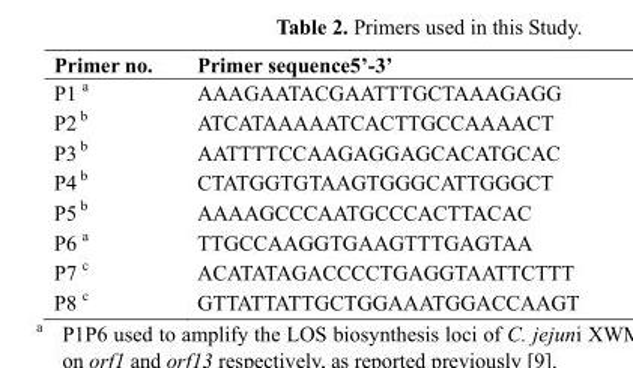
<table><thead><tr><td>Primer no.</td><td>Primer sequence5’-3’</td></tr></thead><tbody><tr><td>P1 a</td><td>AAAGAATACGAATTTGCTAAAGAGG</td></tr><tr><td>P2 b</td><td>ATCATAAAAATCACTTGCCAAAACT</td></tr><tr><td>P3 b</td><td>AATTTTCCAAGAGGAGCACATGCAC</td></tr><tr><td>P4 b</td><td>CTATGGTGTAAGTGGGCATTGGGCT</td></tr><tr><td>P5 b</td><td>AAAAGCCCAATGCCCACTTACAC</td></tr><tr><td>P6 a</td><td>TTGCCAAGGTGAAGTTTGAGTAA</td></tr><tr><td>P7 c</td><td>ACATATAGACCCCTGAGGTAATTCTTT</td></tr><tr><td>P8 c</td><td>GTTATTATTGCTGGAAATGGACCAAGT</td></tr></tbody></table>